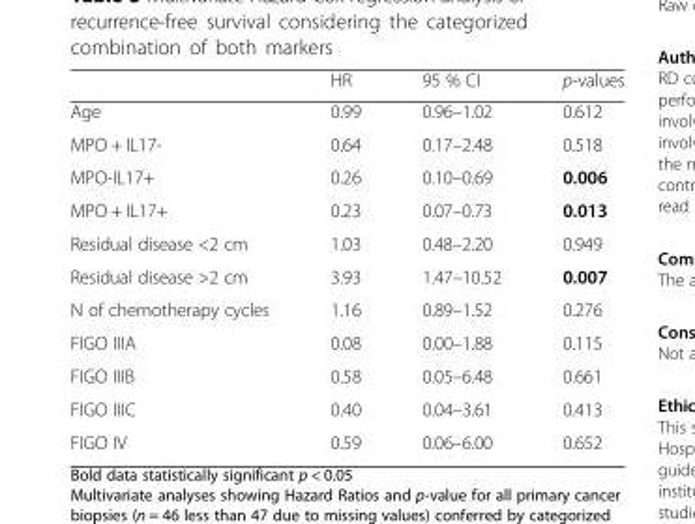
<table><thead><tr><td></td><td>HR</td><td>95 % CI</td><td>p-values</td></tr></thead><tbody><tr><td>Age</td><td>0.99</td><td>0.96–1.02</td><td>0.612</td></tr><tr><td>MPO + IL17-</td><td>0.64</td><td>0.17–2.48</td><td>0.518</td></tr><tr><td>MPO-IL17+</td><td>0.26</td><td>0.10–0.69</td><td>0.006</td></tr><tr><td>MPO + IL17+</td><td>0.23</td><td>0.07–0.73</td><td>0.013</td></tr><tr><td>Residual disease &lt;2 cm</td><td>1.03</td><td>0.48–2.20</td><td>0.949</td></tr><tr><td>Residual disease &gt;2 cm</td><td>3.93</td><td>1.47–10.52</td><td>0.007</td></tr><tr><td>N of chemotherapy cycles</td><td>1.16</td><td>0.89–1.52</td><td>0.276</td></tr><tr><td>FIGO IIIA</td><td>0.08</td><td>0.00–1.88</td><td>0.115</td></tr><tr><td>FIGO IIIB</td><td>0.58</td><td>0.05–6.48</td><td>0.661</td></tr><tr><td>FIGO IIIC</td><td>0.40</td><td>0.04–3.61</td><td>0.413</td></tr><tr><td>FIGO IV</td><td>0.59</td><td>0.06–6.00</td><td>0.652</td></tr></tbody></table>